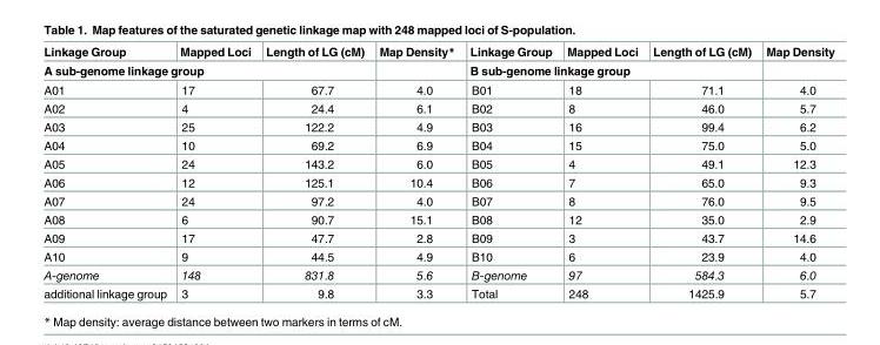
<table><thead><tr><td>Linkage Group</td><td>Mapped Loci</td><td>Length of LG (cM)</td><td rowspan="2">Map Density*</td><td>Linkage Group</td><td>Mapped Loci</td><td>Length of LG (cM)</td><td rowspan="2">Map Density</td></tr><tr><td colspan="3">A sub-genome linkage group</td><td colspan="3">B sub-genome linkage group</td></tr></thead><tbody><tr><td>A01</td><td>17</td><td>67.7</td><td>4.0</td><td>B01</td><td>18</td><td>71.1</td><td>4.0</td></tr><tr><td>A02</td><td>4</td><td>24.4</td><td>6.1</td><td>B02</td><td>8</td><td>46.0</td><td>5.7</td></tr><tr><td>A03</td><td>25</td><td>122.2</td><td>4.9</td><td>B03</td><td>16</td><td>99.4</td><td>6.2</td></tr><tr><td>A04</td><td>10</td><td>69.2</td><td>6.9</td><td>B04</td><td>15</td><td>75.0</td><td>5.0</td></tr><tr><td>A05</td><td>24</td><td>143.2</td><td>6.0</td><td>B05</td><td>4</td><td>49.1</td><td>12.3</td></tr><tr><td>A06</td><td>12</td><td>125.1</td><td>10.4</td><td>B06</td><td>7</td><td>65.0</td><td>9.3</td></tr><tr><td>A07</td><td>24</td><td>97.2</td><td>4.0</td><td>B07</td><td>8</td><td>76.0</td><td>9.5</td></tr><tr><td>A08</td><td>6</td><td>90.7</td><td>15.1</td><td>B08</td><td>12</td><td>35.0</td><td>2.9</td></tr><tr><td>A09</td><td>17</td><td>47.7</td><td>2.8</td><td>B09</td><td>3</td><td>43.7</td><td>14.6</td></tr><tr><td>A10</td><td>9</td><td>44.5</td><td>4.9</td><td>B10</td><td>6</td><td>23.9</td><td>4.0</td></tr><tr><td>A-genome</td><td>148</td><td>831.8</td><td>5.6</td><td>B-genome</td><td>97</td><td>584.3</td><td>6.0</td></tr><tr><td>additional linkage group</td><td>3</td><td>9.8</td><td>3.3</td><td>Total</td><td>248</td><td>1425.9</td><td>5.7</td></tr></tbody></table>